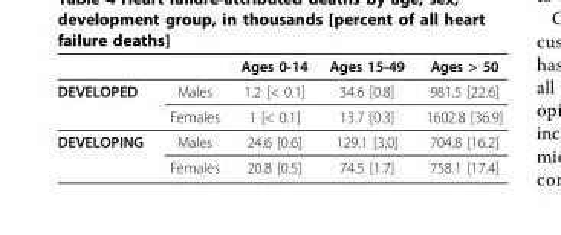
<table><thead><tr><td></td><td></td><td>Ages 0-14</td><td>Ages 15-49</td><td>Ages &gt; 50</td></tr></thead><tbody><tr><td rowspan="2">DEVELOPED</td><td>Males</td><td>1.2 [&lt; 0.1]</td><td>34.6 [0.8]</td><td>981.5 [22.6]</td></tr><tr><td>Females</td><td>1 [&lt; 0.1]</td><td>13.7 [0.3]</td><td>1602.8 [36.9]</td></tr><tr><td rowspan="2">DEVELOPING</td><td>Males</td><td>24.6 [0.6]</td><td>129.1 [3.0]</td><td>704.8 [16.2]</td></tr><tr><td>Females</td><td>20.8 [0.5]</td><td>74.5 [1.7]</td><td>758.1 [17.4]</td></tr></tbody></table>